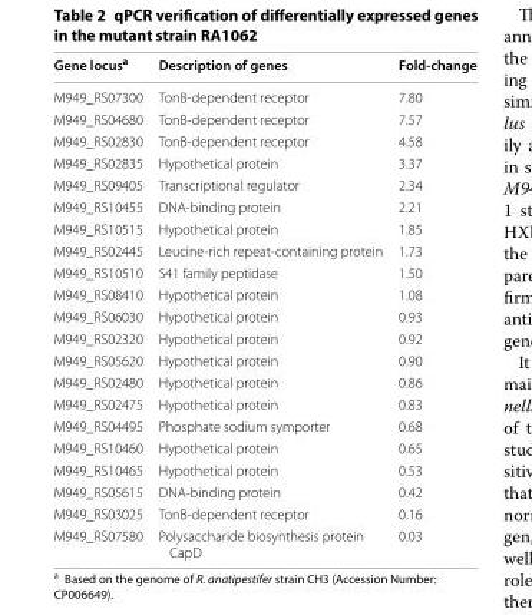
<table><thead><tr><td>Gene locus<sup>a</sup></td><td>Description of genes</td><td>Fold‑change</td></tr></thead><tbody><tr><td>M949_RS07300</td><td>TonB-dependent receptor</td><td>7.80</td></tr><tr><td>M949_RS04680</td><td>TonB-dependent receptor</td><td>7.57</td></tr><tr><td>M949_RS02830</td><td>TonB-dependent receptor</td><td>4.58</td></tr><tr><td>M949_RS02835</td><td>Hypothetical protein</td><td>3.37</td></tr><tr><td>M949_RS09405</td><td>Transcriptional regulator</td><td>2.34</td></tr><tr><td>M949_RS10455</td><td>DNA-binding protein</td><td>2.21</td></tr><tr><td>M949_RS10515</td><td>Hypothetical protein</td><td>1.85</td></tr><tr><td>M949_RS02445</td><td>Leucine-rich repeat-containing protein</td><td>1.73</td></tr><tr><td>M949_RS10510</td><td>S41 family peptidase</td><td>1.50</td></tr><tr><td>M949_RS08410</td><td>Hypothetical protein</td><td>1.08</td></tr><tr><td>M949_RS06030</td><td>Hypothetical protein</td><td>0.93</td></tr><tr><td>M949_RS02320</td><td>Hypothetical protein</td><td>0.92</td></tr><tr><td>M949_RS05620</td><td>Hypothetical protein</td><td>0.90</td></tr><tr><td>M949_RS02480</td><td>Hypothetical protein</td><td>0.86</td></tr><tr><td>M949_RS02475</td><td>Hypothetical protein</td><td>0.83</td></tr><tr><td>M949_RS04495</td><td>Phosphate sodium symporter</td><td>0.68</td></tr><tr><td>M949_RS10460</td><td>Hypothetical protein</td><td>0.65</td></tr><tr><td>M949_RS10465</td><td>Hypothetical protein</td><td>0.53</td></tr><tr><td>M949_RS05615</td><td>DNA-binding protein</td><td>0.42</td></tr><tr><td>M949_RS03025</td><td>TonB-dependent receptor</td><td>0.16</td></tr><tr><td>M949_RS07580</td><td>Polysaccharide biosynthesis protein CapD</td><td>0.03</td></tr></tbody></table>